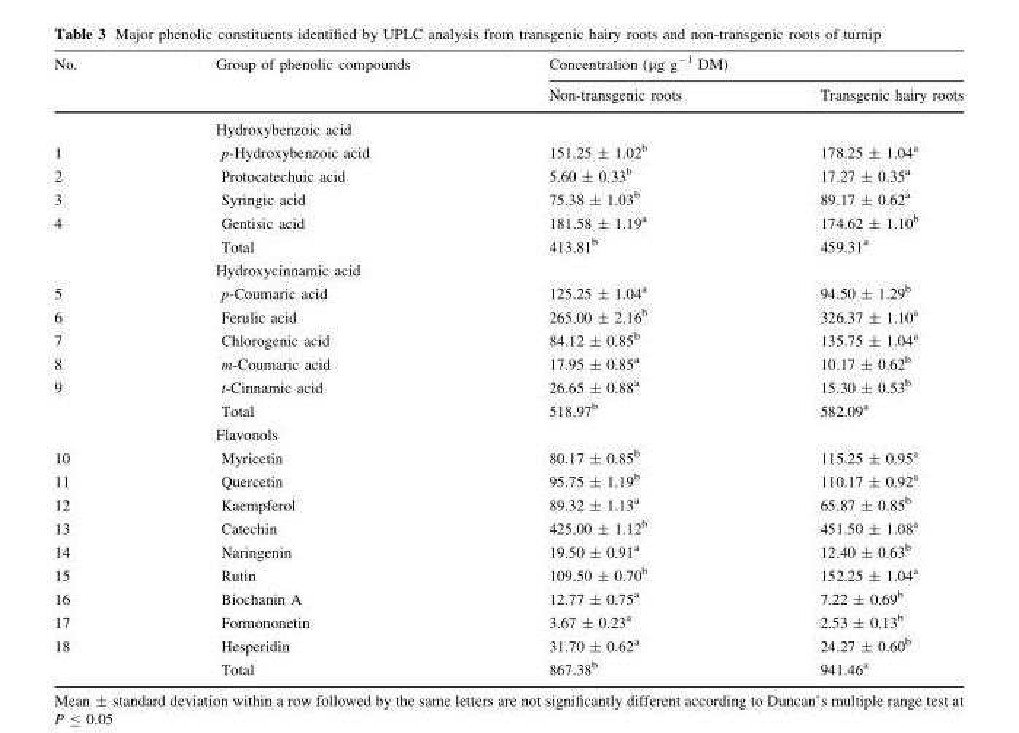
<table><thead><tr><td rowspan="2">No.</td><td rowspan="2">Group of phenolic compounds</td><td colspan="2">Concentration (µg g<sup>-1</sup> DM)</td></tr><tr><td>Non-transgenic roots</td><td>Transgenic hairy roots</td></tr></thead><tbody><tr><td></td><td colspan="3">Hydroxybenzoic acid</td></tr><tr><td>1</td><td>p-Hydroxybenzoic acid</td><td>151.25 ± 1.02<sup>b</sup></td><td>178.25 ± 1.04<sup>a</sup></td></tr><tr><td>2</td><td>Protocatechuic acid</td><td>5.60 ± 0.33<sup>b</sup></td><td>17.27 ± 0.35<sup>a</sup></td></tr><tr><td>3</td><td>Syringic acid</td><td>75.38 ± 1.03<sup>b</sup></td><td>89.17 ± 0.62<sup>a</sup></td></tr><tr><td rowspan="3">4</td><td>Gentisic acid</td><td>181.58 ± 1.19<sup>a</sup></td><td>174.62 ± 1.10<sup>b</sup></td></tr><tr><td>Total</td><td>413.81<sup>b</sup></td><td>459.31<sup>a</sup></td></tr><tr><td colspan="3">Hydroxycinnamic acid</td></tr><tr><td>5</td><td>p-Coumaric acid</td><td>125.25 ± 1.04<sup>a</sup></td><td>94.50 ± 1.29<sup>b</sup></td></tr><tr><td>6</td><td>Ferulic acid</td><td>265.00 ± 2.16<sup>b</sup></td><td>326.37 ± 1.10<sup>a</sup></td></tr><tr><td>7</td><td>Chlorogenic acid</td><td>84.12 ± 0.85<sup>b</sup></td><td>135.75 ± 1.04<sup>a</sup></td></tr><tr><td>8</td><td>m-Coumaric acid</td><td>17.95 ± 0.85<sup>a</sup></td><td>10.17 ± 0.62<sup>b</sup></td></tr><tr><td rowspan="3">9</td><td>t-Cinnamic acid</td><td>26.65 ± 0.88<sup>a</sup></td><td>15.30 ± 0.53<sup>b</sup></td></tr><tr><td>Total</td><td>518.97<sup>b</sup></td><td>582.09<sup>a</sup></td></tr><tr><td colspan="3">Flavonols</td></tr><tr><td>10</td><td>Myricetin</td><td>80.17 ± 0.85<sup>b</sup></td><td>115.25 ± 0.95<sup>a</sup></td></tr><tr><td>11</td><td>Quercetin</td><td>95.75 ± 1.19<sup>b</sup></td><td>110.17 ± 0.92<sup>a</sup></td></tr><tr><td>12</td><td>Kaempferol</td><td>89.32 ± 1.13<sup>a</sup></td><td>65.87 ± 0.85<sup>b</sup></td></tr><tr><td>13</td><td>Catechin</td><td>425.00 ± 1.12<sup>b</sup></td><td>451.50 ± 1.08<sup>a</sup></td></tr><tr><td>14</td><td>Naringenin</td><td>19.50 ± 0.91<sup>a</sup></td><td>12.40 ± 0.63<sup>b</sup></td></tr><tr><td>15</td><td>Rutin</td><td>109.50 ± 0.70<sup>b</sup></td><td>152.25 ± 1.04<sup>a</sup></td></tr><tr><td>16</td><td>Biochanin A</td><td>12.77 ± 0.75<sup>a</sup></td><td>7.22 ± 0.69<sup>b</sup></td></tr><tr><td>17</td><td>Formononetin</td><td>3.67 ± 0.23<sup>a</sup></td><td>2.53 ± 0.13<sup>b</sup></td></tr><tr><td rowspan="2">18</td><td>Hesperidin</td><td>31.70 ± 0.62<sup>a</sup></td><td>24.27 ± 0.60<sup>b</sup></td></tr><tr><td>Total</td><td>867.38<sup>b</sup></td><td>941.46<sup>a</sup></td></tr></tbody></table>